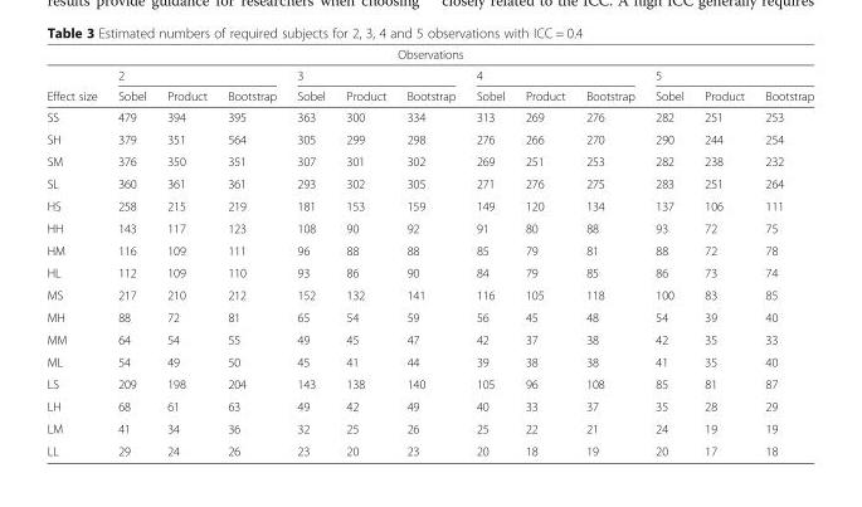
<table><thead><tr><td colspan="13">Observations</td></tr><tr><td rowspan="2">Effect size</td><td colspan="3">2</td><td colspan="3">3</td><td colspan="3">4</td><td colspan="3">5</td></tr><tr><td>Sobel</td><td>Product</td><td>Bootstrap</td><td>Sobel</td><td>Product</td><td>Bootstrap</td><td>Sobel</td><td>Product</td><td>Bootstrap</td><td>Sobel</td><td>Product</td><td>Bootstrap</td></tr></thead><tbody><tr><td>SS</td><td>479</td><td>394</td><td>395</td><td>363</td><td>300</td><td>334</td><td>313</td><td>269</td><td>276</td><td>282</td><td>251</td><td>253</td></tr><tr><td>SH</td><td>379</td><td>351</td><td>564</td><td>305</td><td>299</td><td>298</td><td>276</td><td>266</td><td>270</td><td>290</td><td>244</td><td>254</td></tr><tr><td>SM</td><td>376</td><td>350</td><td>351</td><td>307</td><td>301</td><td>302</td><td>269</td><td>251</td><td>253</td><td>282</td><td>238</td><td>232</td></tr><tr><td>SL</td><td>360</td><td>361</td><td>361</td><td>293</td><td>302</td><td>305</td><td>271</td><td>276</td><td>275</td><td>283</td><td>251</td><td>264</td></tr><tr><td>HS</td><td>258</td><td>215</td><td>219</td><td>181</td><td>153</td><td>159</td><td>149</td><td>120</td><td>134</td><td>137</td><td>106</td><td>111</td></tr><tr><td>HH</td><td>143</td><td>117</td><td>123</td><td>108</td><td>90</td><td>92</td><td>91</td><td>80</td><td>88</td><td>93</td><td>72</td><td>75</td></tr><tr><td>HM</td><td>116</td><td>109</td><td>111</td><td>96</td><td>88</td><td>88</td><td>85</td><td>79</td><td>81</td><td>88</td><td>72</td><td>78</td></tr><tr><td>HL</td><td>112</td><td>109</td><td>110</td><td>93</td><td>86</td><td>90</td><td>84</td><td>79</td><td>85</td><td>86</td><td>73</td><td>74</td></tr><tr><td>MS</td><td>217</td><td>210</td><td>212</td><td>152</td><td>132</td><td>141</td><td>116</td><td>105</td><td>118</td><td>100</td><td>83</td><td>85</td></tr><tr><td>MH</td><td>88</td><td>72</td><td>81</td><td>65</td><td>54</td><td>59</td><td>56</td><td>45</td><td>48</td><td>54</td><td>39</td><td>40</td></tr><tr><td>MM</td><td>64</td><td>54</td><td>55</td><td>49</td><td>45</td><td>47</td><td>42</td><td>37</td><td>38</td><td>42</td><td>35</td><td>33</td></tr><tr><td>ML</td><td>54</td><td>49</td><td>50</td><td>45</td><td>41</td><td>44</td><td>39</td><td>38</td><td>38</td><td>41</td><td>35</td><td>40</td></tr><tr><td>LS</td><td>209</td><td>198</td><td>204</td><td>143</td><td>138</td><td>140</td><td>105</td><td>96</td><td>108</td><td>85</td><td>81</td><td>87</td></tr><tr><td>LH</td><td>68</td><td>61</td><td>63</td><td>49</td><td>42</td><td>49</td><td>40</td><td>33</td><td>37</td><td>35</td><td>28</td><td>29</td></tr><tr><td>LM</td><td>41</td><td>34</td><td>36</td><td>32</td><td>25</td><td>26</td><td>25</td><td>22</td><td>21</td><td>24</td><td>19</td><td>19</td></tr><tr><td>LL</td><td>29</td><td>24</td><td>26</td><td>23</td><td>20</td><td>23</td><td>20</td><td>18</td><td>19</td><td>20</td><td>17</td><td>18</td></tr></tbody></table>